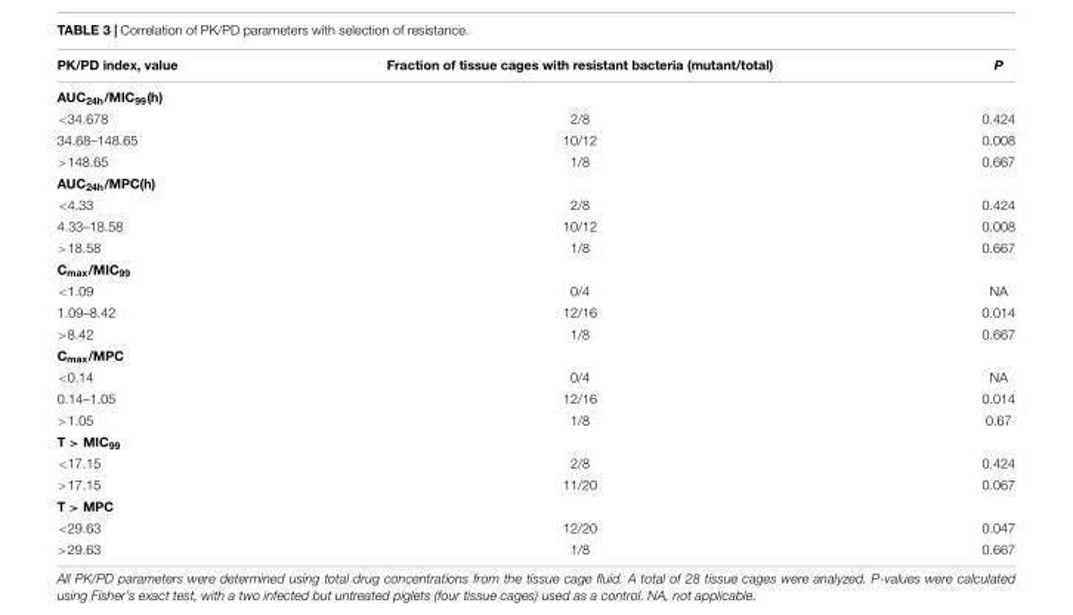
<table><thead><tr><td>PK/PD index, value</td><td>Fraction of tissue cages with resistant bacteria (mutant/total)</td><td>P</td></tr></thead><tbody><tr><td colspan="3">AUC<sub>24h</sub>/MIC<sub>99</sub>(h)</td></tr><tr><td>&lt;34.678</td><td>2/8</td><td>0.424</td></tr><tr><td>34.68–148.65</td><td>10/12</td><td>0.008</td></tr><tr><td>&gt;148.65</td><td>1/8</td><td>0.667</td></tr><tr><td colspan="3">AUC<sub>24h</sub>/MPC(h)</td></tr><tr><td>&lt;4.33</td><td>2/8</td><td>0.424</td></tr><tr><td>4.33–18.58</td><td>10/12</td><td>0.008</td></tr><tr><td>&gt;18.58</td><td>1/8</td><td>0.667</td></tr><tr><td colspan="3">C<sub>max</sub>/MIC<sub>99</sub></td></tr><tr><td>&lt;1.09</td><td>0/4</td><td>NA</td></tr><tr><td>1.09–8.42</td><td>12/16</td><td>0.014</td></tr><tr><td>&gt;8.42</td><td>1/8</td><td>0.667</td></tr><tr><td colspan="3">C<sub>max</sub>/MPC</td></tr><tr><td>&lt;0.14</td><td>0/4</td><td>NA</td></tr><tr><td>0.14–1.05</td><td>12/16</td><td>0.014</td></tr><tr><td>&gt;1.05</td><td>1/8</td><td>0.67</td></tr><tr><td colspan="3">T &gt; MIC<sub>99</sub></td></tr><tr><td>&lt;17.15</td><td>2/8</td><td>0.424</td></tr><tr><td>&gt;17.15</td><td>11/20</td><td>0.067</td></tr><tr><td colspan="3">T &gt; MPC</td></tr><tr><td>&lt;29.63</td><td>12/20</td><td>0.047</td></tr><tr><td>&gt;29.63</td><td>1/8</td><td>0.667</td></tr></tbody></table>